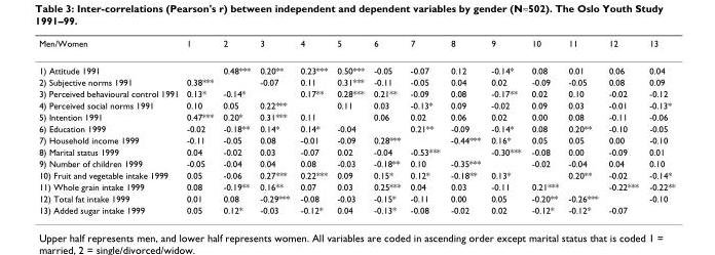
<table><thead><tr><td>Men/Women</td><td>1</td><td>2</td><td>3</td><td>4</td><td>5</td><td>6</td><td>7</td><td>8</td><td>9</td><td>10</td><td>11</td><td>12</td><td>13</td></tr></thead><tbody><tr><td>1) Attitude 1991</td><td></td><td>0.48***</td><td>0.20**</td><td>0.23***</td><td>0.50***</td><td>-0.05</td><td>-0.07</td><td>0.12</td><td>-0.14*</td><td>0.08</td><td>0.01</td><td>0.06</td><td>0.04</td></tr><tr><td>2) Subjective norms 1991</td><td>0.38***</td><td></td><td>-0.07</td><td>0.11</td><td>0.31***</td><td>-0.11</td><td>-0.05</td><td>0.04</td><td>0.02</td><td>-0.09</td><td>-0.05</td><td>0.08</td><td>0.09</td></tr><tr><td>3) Perceived behavioural control 1991</td><td>0.13*</td><td>-0.14*</td><td></td><td>0.17**</td><td>0.28***</td><td>0.21**</td><td>-0.09</td><td>0.08</td><td>-0.17**</td><td>0.02</td><td>0.10</td><td>-0.02</td><td>-0.12</td></tr><tr><td>4) Perceived social norms 1991</td><td>0.10</td><td>0.05</td><td>0.22***</td><td></td><td>0.11</td><td>0.03</td><td>-0.13*</td><td>0.09</td><td>-0.02</td><td>0.09</td><td>0.03</td><td>-0.01</td><td>-0.13*</td></tr><tr><td>5) Intention 1991</td><td>0.47***</td><td>0.20*</td><td>0.31***</td><td>0.11</td><td></td><td>0.06</td><td>0.02</td><td>0.06</td><td>0.02</td><td>0.00</td><td>0.08</td><td>-0.11</td><td>-0.06</td></tr><tr><td>6) Education 1999</td><td>-0.02</td><td>-0.18**</td><td>0.14*</td><td>0.14*</td><td>-0.04</td><td></td><td>0.21**</td><td>-0.09</td><td>-0.14*</td><td>0.08</td><td>0.20**</td><td>-0.10</td><td>-0.05</td></tr><tr><td>7) Household income 1999</td><td>-0.11</td><td>-0.05</td><td>0.08</td><td>-0.01</td><td>-0.09</td><td>0.28***</td><td></td><td>-0.44***</td><td>0.16*</td><td>0.05</td><td>0.05</td><td>0.00</td><td>-0.10</td></tr><tr><td>8) Marital status 1999</td><td>0.04</td><td>-0.02</td><td>0.03</td><td>-0.07</td><td>0.02</td><td>-0.04</td><td>-0.53***</td><td></td><td>-0.30***</td><td>-0.08</td><td>0.00</td><td>-0.09</td><td>0.01</td></tr><tr><td>9) Number of children 1999</td><td>-0.05</td><td>-0.04</td><td>0.04</td><td>0.08</td><td>-0.03</td><td>-0.18**</td><td>0.10</td><td>-0.35***</td><td></td><td>-0.02</td><td>-0.04</td><td>0.04</td><td>0.10</td></tr><tr><td>10) Fruit and vegetable intake 1999</td><td>0.05</td><td>-0.06</td><td>0.27***</td><td>0.22***</td><td>0.09</td><td>0.15*</td><td>0.12*</td><td>-0.18**</td><td>0.13*</td><td></td><td>0.20**</td><td>-0.02</td><td>-0.14*</td></tr><tr><td>11) Whole grain intake 1999</td><td>0.08</td><td>-0.19**</td><td>0.16**</td><td>0.07</td><td>0.03</td><td>0.25***</td><td>0.04</td><td>0.03</td><td>-0.11</td><td>0.21***</td><td></td><td>-0.22***</td><td>-0.22**</td></tr><tr><td>12) Total fat intake 1999</td><td>0.01</td><td>0.08</td><td>-0.29***</td><td>-0.08</td><td>-0.03</td><td>-0.15*</td><td>-0.11</td><td>0.00</td><td>0.05</td><td>-0.20**</td><td>-0.26***</td><td></td><td>-0.10</td></tr><tr><td>13) Added sugar intake 1999</td><td>0.05</td><td>0.12*</td><td>-0.03</td><td>-0.12*</td><td>0.04</td><td>-0.13*</td><td>-0.08</td><td>-0.02</td><td>0.02</td><td>-0.12*</td><td>-0.12*</td><td>-0.07</td><td></td></tr></tbody></table>